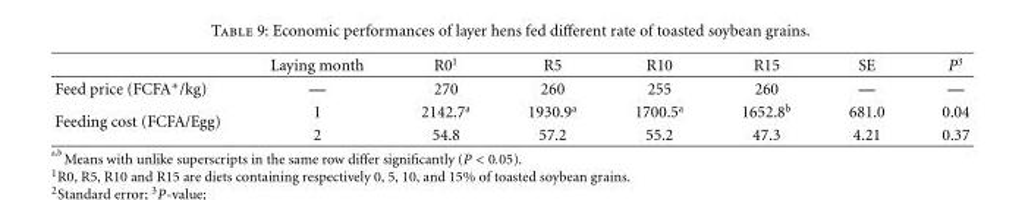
<table><thead><tr><td></td><td>Laying month</td><td>R0<sup>1</sup></td><td>R5</td><td>R10</td><td>R15</td><td>SE</td><td>P<sup>3</sup></td></tr></thead><tbody><tr><td>Feed price (FCFA∗/kg)</td><td>—</td><td>270</td><td>260</td><td>255</td><td>260</td><td>—</td><td>—</td></tr><tr><td rowspan="2">Feeding cost (FCFA/Egg)</td><td>1</td><td>2142.7<sup>a</sup></td><td>1930.9<sup>a</sup></td><td>1700.5<sup>a</sup></td><td>1652.8<sup>b</sup></td><td>681.0</td><td>0.04</td></tr><tr><td>2</td><td>54.8</td><td>57.2</td><td>55.2</td><td>47.3</td><td>4.21</td><td>0.37</td></tr></tbody></table>